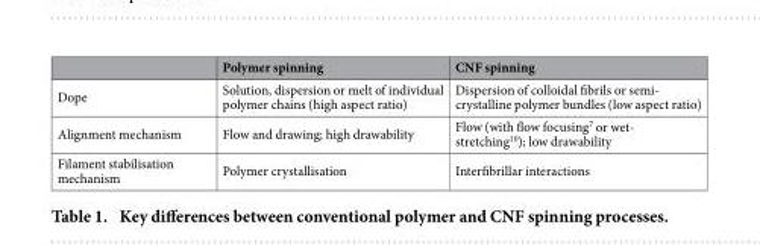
<table><thead><tr><td></td><td>Polymer spinning</td><td>CNF spinning</td></tr></thead><tbody><tr><td>Dope</td><td>Solution, dispersion or melt of individual polymer chains (high aspect ratio)</td><td>Dispersion of colloidal fibrils or semi- crystalline polymer bundles (low aspect ratio)</td></tr><tr><td>Alignment mechanism</td><td>Flow and drawing; high drawability</td><td>Flow (with flow focusing<sup>7</sup> or wet- stretching<sup>10</sup>); low drawability</td></tr><tr><td>Filament stabilisation mechanism</td><td>Polymer crystallisation</td><td>Interfibrillar interactions</td></tr></tbody></table>